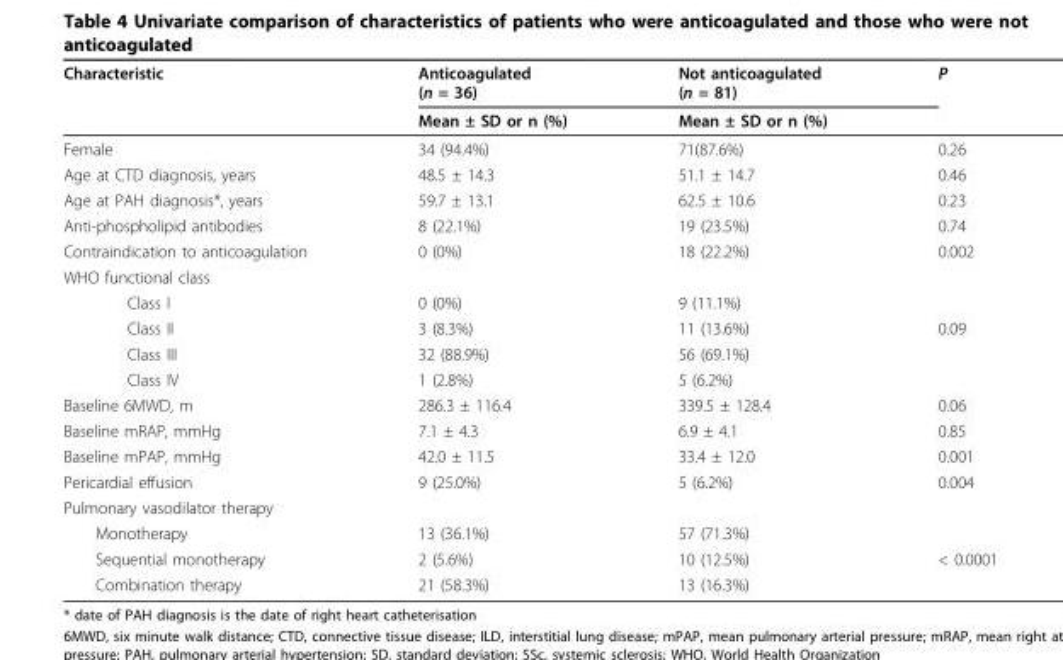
<table><thead><tr><td rowspan="2">Characteristic</td><td rowspan="2">Anticoagulated (n = 36) Mean ± SD or n (%)</td><td rowspan="2">Not anticoagulated (n = 81) Mean ± SD or n (%)</td><td rowspan="2">P</td></tr><tr></tr></thead><tbody><tr><td>Female</td><td>34 (94.4%)</td><td>71(87.6%)</td><td>0.26</td></tr><tr><td>Age at CTD diagnosis, years</td><td>48.5 ± 14.3</td><td>51.1 ± 14.7</td><td>0.46</td></tr><tr><td>Age at PAH diagnosis*, years</td><td>59.7 ± 13.1</td><td>62.5 ± 10.6</td><td>0.23</td></tr><tr><td>Anti-phospholipid antibodies</td><td>8 (22.1%)</td><td>19 (23.5%)</td><td>0.74</td></tr><tr><td>Contraindication to anticoagulation</td><td>0 (0%)</td><td>18 (22.2%)</td><td>0.002</td></tr><tr><td colspan="4">WHO functional class</td></tr><tr><td>Class I</td><td>0 (0%)</td><td>9 (11.1%)</td><td></td></tr><tr><td>Class II</td><td>3 (8.3%)</td><td>11 (13.6%)</td><td>0.09</td></tr><tr><td>Class III</td><td>32 (88.9%)</td><td>56 (69.1%)</td><td></td></tr><tr><td>Class IV</td><td>1 (2.8%)</td><td>5 (6.2%)</td><td></td></tr><tr><td>Baseline 6MWD, m</td><td>286.3 ± 116.4</td><td>339.5 ± 128.4</td><td>0.06</td></tr><tr><td>Baseline mRAP, mmHg</td><td>7.1 ± 4.3</td><td>6.9 ± 4.1</td><td>0.85</td></tr><tr><td>Baseline mPAP, mmHg</td><td>42.0 ± 11.5</td><td>33.4 ± 12.0</td><td>0.001</td></tr><tr><td>Pericardial effusion</td><td>9 (25.0%)</td><td>5 (6.2%)</td><td>0.004</td></tr><tr><td colspan="4">Pulmonary vasodilator therapy</td></tr><tr><td>Monotherapy</td><td>13 (36.1%)</td><td>57 (71.3%)</td><td></td></tr><tr><td>Sequential monotherapy</td><td>2 (5.6%)</td><td>10 (12.5%)</td><td>&lt; 0.0001</td></tr><tr><td>Combination therapy</td><td>21 (58.3%)</td><td>13 (16.3%)</td><td></td></tr></tbody></table>